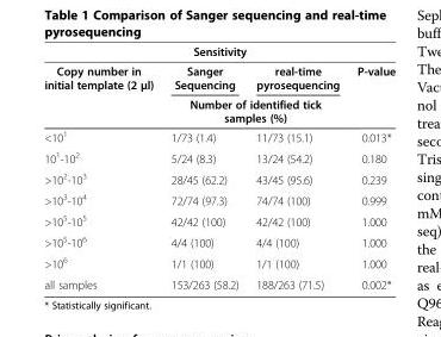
<table><thead><tr><td colspan="4">Sensitivity</td></tr><tr><td rowspan="2">Copy number in initial template (2 μl)</td><td>Sanger Sequencing</td><td>real-time pyrosequencing</td><td rowspan="2">P-value</td></tr><tr><td colspan="2">Number of identified tick samples (%)</td></tr></thead><tbody><tr><td>&lt;10<sup>1</sup></td><td>1/73 (1.4)</td><td>11/73 (15.1)</td><td>0.013*</td></tr><tr><td>10<sup>1</sup>-10<sup>2</sup></td><td>5/24 (8.3)</td><td>13/24 (54.2)</td><td>0.180</td></tr><tr><td>&gt;10<sup>2</sup>-10<sup>3</sup></td><td>28/45 (62.2)</td><td>43/45 (95.6)</td><td>0.239</td></tr><tr><td>&gt;10<sup>3</sup>-10<sup>4</sup></td><td>72/74 (97.3)</td><td>74/74 (100)</td><td>0.999</td></tr><tr><td>&gt;10<sup>5</sup>-10<sup>5</sup></td><td>42/42 (100)</td><td>42/42 (100)</td><td>1.000</td></tr><tr><td>&gt;10<sup>5</sup>-10<sup>6</sup></td><td>4/4 (100)</td><td>4/4 (100)</td><td>1.000</td></tr><tr><td>&gt;10<sup>6</sup></td><td>1/1 (100)</td><td>1/1 (100)</td><td>1.000</td></tr><tr><td>all samples</td><td>153/263 (58.2)</td><td>188/263 (71.5)</td><td>0.002*</td></tr></tbody></table>